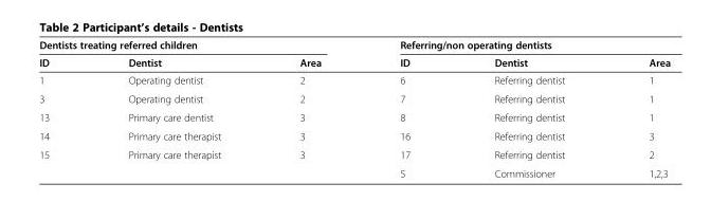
<table><thead><tr><td colspan="3">Dentists treating referred children</td><td colspan="3">Referring/non operating dentists</td></tr><tr><td>ID</td><td>Dentist</td><td>Area</td><td>ID</td><td>Dentist</td><td>Area</td></tr></thead><tbody><tr><td>1</td><td>Operating dentist</td><td>2</td><td>6</td><td>Referring dentist</td><td>1</td></tr><tr><td>3</td><td>Operating dentist</td><td>2</td><td>7</td><td>Referring dentist</td><td>1</td></tr><tr><td>13</td><td>Primary care dentist</td><td>3</td><td>8</td><td>Referring dentist</td><td>1</td></tr><tr><td>14</td><td>Primary care therapist</td><td>3</td><td>16</td><td>Referring dentist</td><td>3</td></tr><tr><td>15</td><td>Primary care therapist</td><td>3</td><td>17</td><td>Referring dentist</td><td>2</td></tr><tr><td colspan="3"></td><td>5</td><td>Commissioner</td><td>1,2,3</td></tr></tbody></table>